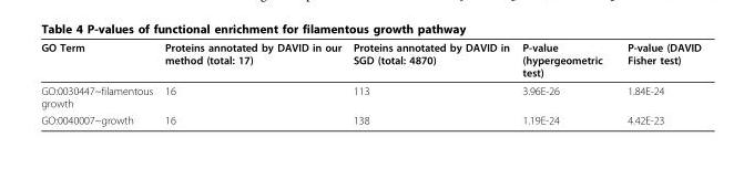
<table><thead><tr><td>GO Term</td><td>Proteins annotated by DAVID in our method (total: 17)</td><td>Proteins annotated by DAVID in SGD (total: 4870)</td><td>P-value (hypergeometric test)</td><td>P-value (DAVID Fisher test)</td></tr></thead><tbody><tr><td>GO:0030447~filamentous growth</td><td>16</td><td>113</td><td>3.96E-26</td><td>1.84E-24</td></tr><tr><td>GO:0040007~growth</td><td>16</td><td>138</td><td>1.19E-24</td><td>4.42E-23</td></tr></tbody></table>